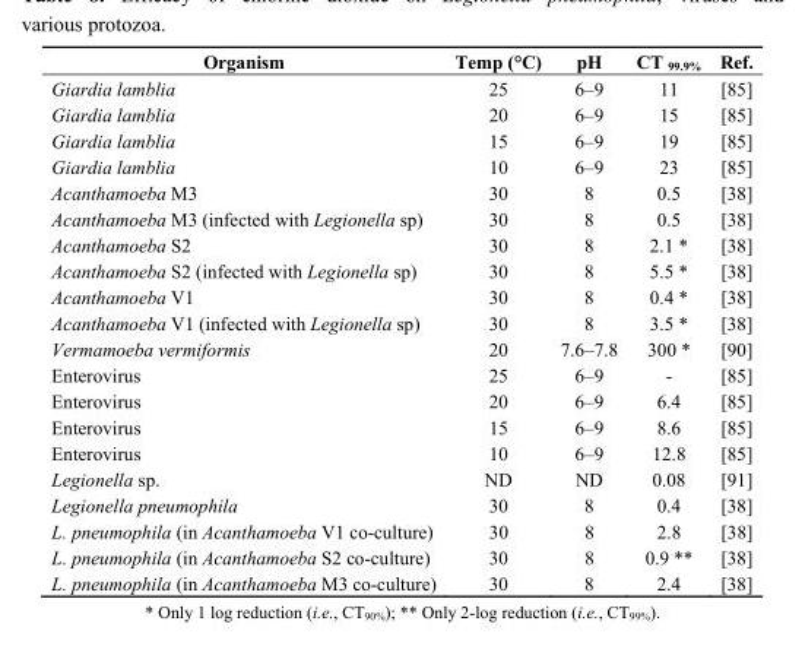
<table><thead><tr><td>Organism</td><td>Temp (°C)</td><td>pH</td><td>CT <sub>99.9%</sub></td><td>Ref.</td></tr></thead><tbody><tr><td>Giardia lamblia</td><td>25</td><td>6–9</td><td>11</td><td>[85]</td></tr><tr><td>Giardia lamblia</td><td>20</td><td>6–9</td><td>15</td><td>[85]</td></tr><tr><td>Giardia lamblia</td><td>15</td><td>6–9</td><td>19</td><td>[85]</td></tr><tr><td>Giardia lamblia</td><td>10</td><td>6–9</td><td>23</td><td>[85]</td></tr><tr><td>Acanthamoeba M3</td><td>30</td><td>8</td><td>0.5</td><td>[38]</td></tr><tr><td>Acanthamoeba M3 (infected with Legionella sp)</td><td>30</td><td>8</td><td>0.5</td><td>[38]</td></tr><tr><td>Acanthamoeba S2</td><td>30</td><td>8</td><td>2.1 *</td><td>[38]</td></tr><tr><td>Acanthamoeba S2 (infected with Legionella sp)</td><td>30</td><td>8</td><td>5.5 *</td><td>[38]</td></tr><tr><td>Acanthamoeba V1</td><td>30</td><td>8</td><td>0.4 *</td><td>[38]</td></tr><tr><td>Acanthamoeba V1 (infected with Legionella sp)</td><td>30</td><td>8</td><td>3.5 *</td><td>[38]</td></tr><tr><td>Vermamoeba vermiformis</td><td>20</td><td>7.6–7.8</td><td>300 *</td><td>[90]</td></tr><tr><td>Enterovirus</td><td>25</td><td>6–9</td><td>-</td><td>[85]</td></tr><tr><td>Enterovirus</td><td>20</td><td>6–9</td><td>6.4</td><td>[85]</td></tr><tr><td>Enterovirus</td><td>15</td><td>6–9</td><td>8.6</td><td>[85]</td></tr><tr><td>Enterovirus</td><td>10</td><td>6–9</td><td>12.8</td><td>[85]</td></tr><tr><td>Legionella sp.</td><td>ND</td><td>ND</td><td>0.08</td><td>[91]</td></tr><tr><td>Legionella pneumophila</td><td>30</td><td>8</td><td>0.4</td><td>[38]</td></tr><tr><td>L. pneumophila (in Acanthamoeba V1 co-culture)</td><td>30</td><td>8</td><td>2.8</td><td>[38]</td></tr><tr><td>L. pneumophila (in Acanthamoeba S2 co-culture)</td><td>30</td><td>8</td><td>0.9 **</td><td>[38]</td></tr><tr><td>L. pneumophila (in Acanthamoeba M3 co-culture)</td><td>30</td><td>8</td><td>2.4</td><td>[38]</td></tr></tbody></table>